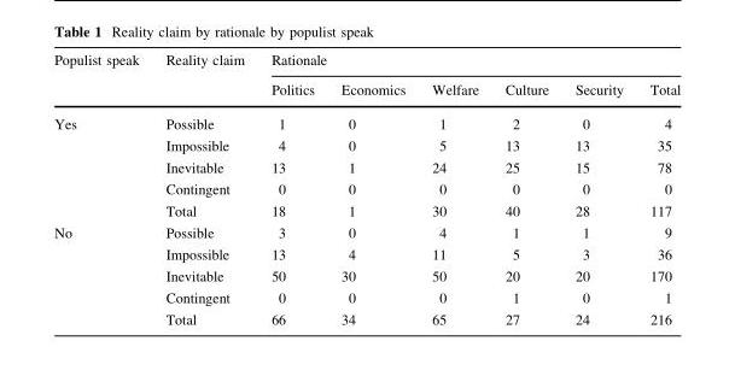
<table><thead><tr><td rowspan="2">Populist speak</td><td rowspan="2">Reality claim</td><td colspan="6">Rationale</td></tr><tr><td>Politics</td><td>Economics</td><td>Welfare</td><td>Culture</td><td>Security</td><td>Total</td></tr></thead><tbody><tr><td rowspan="5">Yes</td><td>Possible</td><td>1</td><td>0</td><td>1</td><td>2</td><td>0</td><td>4</td></tr><tr><td>Impossible</td><td>4</td><td>0</td><td>5</td><td>13</td><td>13</td><td>35</td></tr><tr><td>Inevitable</td><td>13</td><td>1</td><td>24</td><td>25</td><td>15</td><td>78</td></tr><tr><td>Contingent</td><td>0</td><td>0</td><td>0</td><td>0</td><td>0</td><td>0</td></tr><tr><td>Total</td><td>18</td><td>1</td><td>30</td><td>40</td><td>28</td><td>117</td></tr><tr><td rowspan="5">No</td><td>Possible</td><td>3</td><td>0</td><td>4</td><td>1</td><td>1</td><td>9</td></tr><tr><td>Impossible</td><td>13</td><td>4</td><td>11</td><td>5</td><td>3</td><td>36</td></tr><tr><td>Inevitable</td><td>50</td><td>30</td><td>50</td><td>20</td><td>20</td><td>170</td></tr><tr><td>Contingent</td><td>0</td><td>0</td><td>0</td><td>1</td><td>0</td><td>1</td></tr><tr><td>Total</td><td>66</td><td>34</td><td>65</td><td>27</td><td>24</td><td>216</td></tr></tbody></table>